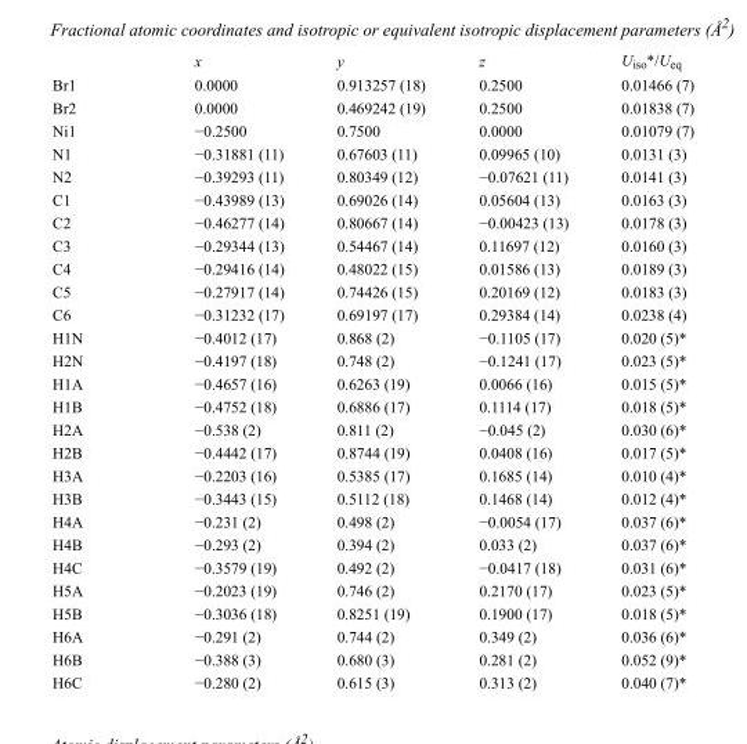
<table><thead><tr><td></td><td>x</td><td>y</td><td>z</td><td>U<sub>iso</sub>*/U<sub>eq</sub></td></tr></thead><tbody><tr><td>Br1</td><td>0.0000</td><td>0.913257 (18)</td><td>0.2500</td><td>0.01466 (7)</td></tr><tr><td>Br2</td><td>0.0000</td><td>0.469242 (19)</td><td>0.2500</td><td>0.01838 (7)</td></tr><tr><td>Ni1</td><td>−0.2500</td><td>0.7500</td><td>0.0000</td><td>0.01079 (7)</td></tr><tr><td>N1</td><td>−0.31881 (11)</td><td>0.67603 (11)</td><td>0.09965 (10)</td><td>0.0131 (3)</td></tr><tr><td>N2</td><td>−0.39293 (11)</td><td>0.80349 (12)</td><td>−0.07621 (11)</td><td>0.0141 (3)</td></tr><tr><td>C1</td><td>−0.43989 (13)</td><td>0.69026 (14)</td><td>0.05604 (13)</td><td>0.0163 (3)</td></tr><tr><td>C2</td><td>−0.46277 (14)</td><td>0.80667 (14)</td><td>−0.00423 (13)</td><td>0.0178 (3)</td></tr><tr><td>C3</td><td>−0.29344 (13)</td><td>0.54467 (14)</td><td>0.11697 (12)</td><td>0.0160 (3)</td></tr><tr><td>C4</td><td>−0.29416 (14)</td><td>0.48022 (15)</td><td>0.01586 (13)</td><td>0.0189 (3)</td></tr><tr><td>C5</td><td>−0.27917 (14)</td><td>0.74426 (15)</td><td>0.20169 (12)</td><td>0.0183 (3)</td></tr><tr><td>C6</td><td>−0.31232 (17)</td><td>0.69197 (17)</td><td>0.29384 (14)</td><td>0.0238 (4)</td></tr><tr><td>H1N</td><td>−0.4012 (17)</td><td>0.868 (2)</td><td>−0.1105 (17)</td><td>0.020 (5)*</td></tr><tr><td>H2N</td><td>−0.4197 (18)</td><td>0.748 (2)</td><td>−0.1241 (17)</td><td>0.023 (5)*</td></tr><tr><td>H1A</td><td>−0.4657 (16)</td><td>0.6263 (19)</td><td>0.0066 (16)</td><td>0.015 (5)*</td></tr><tr><td>H1B</td><td>−0.4752 (18)</td><td>0.6886 (17)</td><td>0.1114 (17)</td><td>0.018 (5)*</td></tr><tr><td>H2A</td><td>−0.538 (2)</td><td>0.811 (2)</td><td>−0.045 (2)</td><td>0.030 (6)*</td></tr><tr><td>H2B</td><td>−0.4442 (17)</td><td>0.8744 (19)</td><td>0.0408 (16)</td><td>0.017 (5)*</td></tr><tr><td>H3A</td><td>−0.2203 (16)</td><td>0.5385 (17)</td><td>0.1685 (14)</td><td>0.010 (4)*</td></tr><tr><td>H3B</td><td>−0.3443 (15)</td><td>0.5112 (18)</td><td>0.1468 (14)</td><td>0.012 (4)*</td></tr><tr><td>H4A</td><td>−0.231 (2)</td><td>0.498 (2)</td><td>−0.0054 (17)</td><td>0.037 (6)*</td></tr><tr><td>H4B</td><td>−0.293 (2)</td><td>0.394 (2)</td><td>0.033 (2)</td><td>0.037 (6)*</td></tr><tr><td>H4C</td><td>−0.3579 (19)</td><td>0.492 (2)</td><td>−0.0417 (18)</td><td>0.031 (6)*</td></tr><tr><td>H5A</td><td>−0.2023 (19)</td><td>0.746 (2)</td><td>0.2170 (17)</td><td>0.023 (5)*</td></tr><tr><td>H5B</td><td>−0.3036 (18)</td><td>0.8251 (19)</td><td>0.1900 (17)</td><td>0.018 (5)*</td></tr><tr><td>H6A</td><td>−0.291 (2)</td><td>0.744 (2)</td><td>0.349 (2)</td><td>0.036 (6)*</td></tr><tr><td>H6B</td><td>−0.388 (3)</td><td>0.680 (3)</td><td>0.281 (2)</td><td>0.052 (9)*</td></tr><tr><td>H6C</td><td>−0.280 (2)</td><td>0.615 (3)</td><td>0.313 (2)</td><td>0.040 (7)*</td></tr></tbody></table>